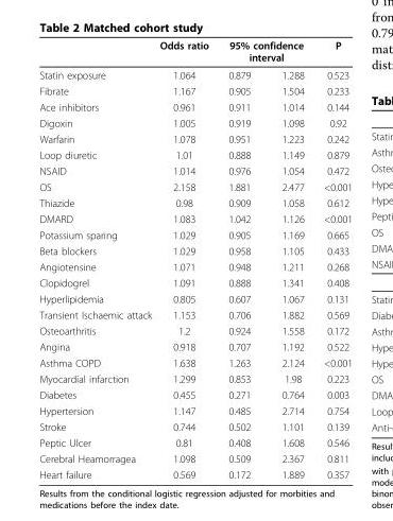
<table><thead><tr><td rowspan="2">Statin exposure</td><td rowspan="2">Odds ratio 1.064</td><td colspan="2">95% confidence interval</td><td rowspan="2">P 0.523</td></tr><tr><td>0.879</td><td>1.288</td></tr></thead><tbody><tr><td>Fibrate</td><td>1.167</td><td>0.905</td><td>1.504</td><td>0.233</td></tr><tr><td>Ace inhibitors</td><td>0.961</td><td>0.911</td><td>1.014</td><td>0.144</td></tr><tr><td>Digoxin</td><td>1.005</td><td>0.919</td><td>1.098</td><td>0.92</td></tr><tr><td>Warfarin</td><td>1.078</td><td>0.951</td><td>1.223</td><td>0.242</td></tr><tr><td>Loop diuretic</td><td>1.01</td><td>0.888</td><td>1.149</td><td>0.879</td></tr><tr><td>NSAID</td><td>1.014</td><td>0.976</td><td>1.054</td><td>0.472</td></tr><tr><td>OS</td><td>2.158</td><td>1.881</td><td>2.477</td><td>&lt;0.001</td></tr><tr><td>Thiazide</td><td>0.98</td><td>0.909</td><td>1.058</td><td>0.612</td></tr><tr><td>DMARD</td><td>1.083</td><td>1.042</td><td>1.126</td><td>&lt;0.001</td></tr><tr><td>Potassium sparing</td><td>1.029</td><td>0.905</td><td>1.169</td><td>0.665</td></tr><tr><td>Beta blockers</td><td>1.029</td><td>0.958</td><td>1.105</td><td>0.433</td></tr><tr><td>Angiotensine</td><td>1.071</td><td>0.948</td><td>1.211</td><td>0.268</td></tr><tr><td>Clopidogrel</td><td>1.091</td><td>0.888</td><td>1.341</td><td>0.408</td></tr><tr><td>Hyperlipidemia</td><td>0.805</td><td>0.607</td><td>1.067</td><td>0.131</td></tr><tr><td>Transient Ischaemic attack</td><td>1.153</td><td>0.706</td><td>1.882</td><td>0.569</td></tr><tr><td>Osteoarthritis</td><td>1.2</td><td>0.924</td><td>1.558</td><td>0.172</td></tr><tr><td>Angina</td><td>0.918</td><td>0.707</td><td>1.192</td><td>0.522</td></tr><tr><td>Asthma COPD</td><td>1.638</td><td>1.263</td><td>2.124</td><td>&lt;0.001</td></tr><tr><td>Myocardial infarction</td><td>1.299</td><td>0.853</td><td>1.98</td><td>0.223</td></tr><tr><td>Diabetes</td><td>0.455</td><td>0.271</td><td>0.764</td><td>0.003</td></tr><tr><td>Hypertersion</td><td>1.147</td><td>0.485</td><td>2.714</td><td>0.754</td></tr><tr><td>Stroke</td><td>0.744</td><td>0.502</td><td>1.101</td><td>0.139</td></tr><tr><td>Peptic Ulcer</td><td>0.81</td><td>0.408</td><td>1.608</td><td>0.546</td></tr><tr><td>Cerebral Heamorragea</td><td>1.098</td><td>0.509</td><td>2.367</td><td>0.811</td></tr><tr><td>Heart failure</td><td>0.569</td><td>0.172</td><td>1.889</td><td>0.357</td></tr></tbody></table>